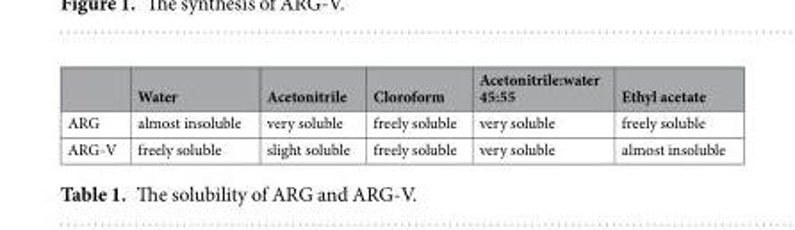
<table><thead><tr><td></td><td>Water</td><td>Acetonitrile</td><td>Cloroform</td><td>Acetonitrile:water 45:55</td><td>Ethyl acetate</td></tr></thead><tbody><tr><td>ARG</td><td>almost insoluble</td><td>very soluble</td><td>freely soluble</td><td>very soluble</td><td>freely soluble</td></tr><tr><td>ARG-V</td><td>freely soluble</td><td>slight soluble</td><td>freely soluble</td><td>very soluble</td><td>almost insoluble</td></tr></tbody></table>